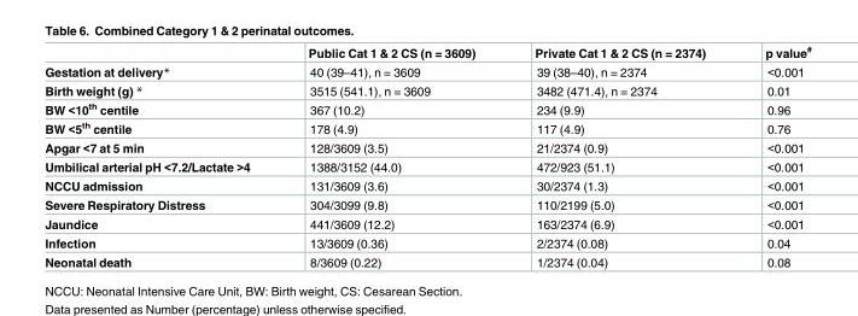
<table><thead><tr><td></td><td>Public Cat 1 &amp; 2 CS (n = 3609)</td><td>Private Cat 1 &amp; 2 CS (n = 2374)</td><td>p value<sup>#</sup></td></tr></thead><tbody><tr><td>Gestation at delivery*</td><td>40 (39–41), n = 3609</td><td>39 (38–40), n = 2374</td><td>&lt;0.001</td></tr><tr><td>Birth weight (g) *</td><td>3515 (541.1), n = 3609</td><td>3482 (471.4), n = 2374</td><td>0.01</td></tr><tr><td>BW &lt;10<sup>th</sup> centile</td><td>367 (10.2)</td><td>234 (9.9)</td><td>0.96</td></tr><tr><td>BW &lt;5<sup>th</sup> centile</td><td>178 (4.9)</td><td>117 (4.9)</td><td>0.76</td></tr><tr><td>Apgar &lt;7 at 5 min</td><td>128/3609 (3.5)</td><td>21/2374 (0.9)</td><td>&lt;0.001</td></tr><tr><td>Umbilical arterial pH &lt;7.2/Lactate &gt;4</td><td>1388/3152 (44.0)</td><td>472/923 (51.1)</td><td>&lt;0.001</td></tr><tr><td>NCCU admission</td><td>131/3609 (3.6)</td><td>30/2374 (1.3)</td><td>&lt;0.001</td></tr><tr><td>Severe Respiratory Distress</td><td>304/3099 (9.8)</td><td>110/2199 (5.0)</td><td>&lt;0.001</td></tr><tr><td>Jaundice</td><td>441/3609 (12.2)</td><td>163/2374 (6.9)</td><td>&lt;0.001</td></tr><tr><td>Infection</td><td>13/3609 (0.36)</td><td>2/2374 (0.08)</td><td>0.04</td></tr><tr><td>Neonatal death</td><td>8/3609 (0.22)</td><td>1/2374 (0.04)</td><td>0.08</td></tr></tbody></table>